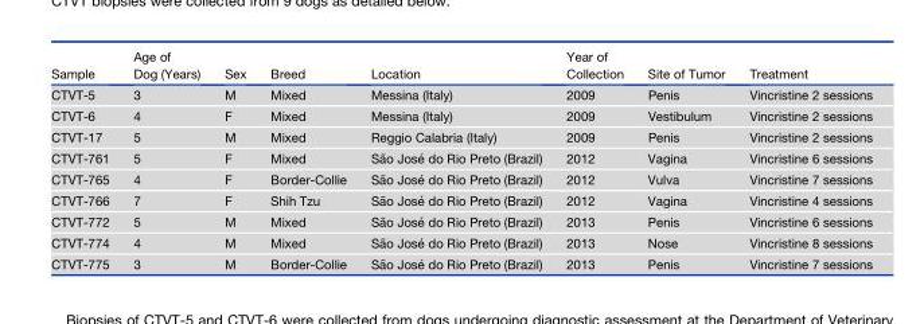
<table><thead><tr><td>Sample</td><td>Age of Dog (Years)</td><td>Sex</td><td>Breed</td><td>Location</td><td>Year of Collection</td><td>Site of Tumor</td><td>Treatment</td></tr></thead><tbody><tr><td>CTVT-5</td><td>3</td><td>M</td><td>Mixed</td><td>Messina (Italy)</td><td>2009</td><td>Penis</td><td>Vincristine 2 sessions</td></tr><tr><td>CTVT-6</td><td>4</td><td>F</td><td>Mixed</td><td>Messina (Italy)</td><td>2009</td><td>Vestibulum</td><td>Vincristine 2 sessions</td></tr><tr><td>CTVT-17</td><td>5</td><td>M</td><td>Mixed</td><td>Reggio Calabria (Italy)</td><td>2009</td><td>Penis</td><td>Vincristine 2 sessions</td></tr><tr><td>CTVT-761</td><td>5</td><td>F</td><td>Mixed</td><td>Sa˜ o Jose´ do Rio Preto (Brazil)</td><td>2012</td><td>Vagina</td><td>Vincristine 6 sessions</td></tr><tr><td>CTVT-765</td><td>4</td><td>F</td><td>Border-Collie</td><td>Sa˜ o Jose´ do Rio Preto (Brazil)</td><td>2012</td><td>Vulva</td><td>Vincristine 7 sessions</td></tr><tr><td>CTVT-766</td><td>7</td><td>F</td><td>Shih Tzu</td><td>Sa˜ o Jose´ do Rio Preto (Brazil)</td><td>2012</td><td>Vagina</td><td>Vincristine 4 sessions</td></tr><tr><td>CTVT-772</td><td>5</td><td>M</td><td>Mixed</td><td>Sa˜ o Jose´ do Rio Preto (Brazil)</td><td>2013</td><td>Penis</td><td>Vincristine 6 sessions</td></tr><tr><td>CTVT-774</td><td>4</td><td>M</td><td>Mixed</td><td>Sa˜ o Jose´ do Rio Preto (Brazil)</td><td>2013</td><td>Nose</td><td>Vincristine 8 sessions</td></tr><tr><td>CTVT-775</td><td>3</td><td>M</td><td>Border-Collie</td><td>Sa˜ o Jose´ do Rio Preto (Brazil)</td><td>2013</td><td>Penis</td><td>Vincristine 7 sessions</td></tr></tbody></table>